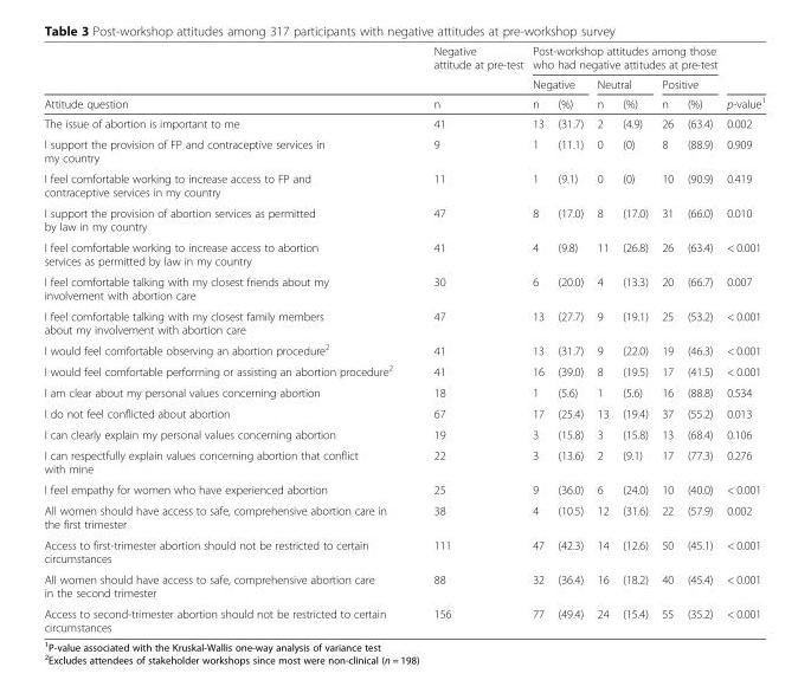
<table><thead><tr><td rowspan="3">Attitude question</td><td rowspan="3">Negative attitude at pre-test n</td><td colspan="6">Post-workshop attitudes among those who had negative attitudes at pre-test</td><td rowspan="3">p-value<sup>1</sup></td></tr><tr><td colspan="2">Negative</td><td colspan="2">Neutral</td><td colspan="2">Positive</td></tr><tr><td>n</td><td>(%)</td><td>n</td><td>(%)</td><td>n</td><td>(%)</td></tr></thead><tbody><tr><td>The issue of abortion is important to me</td><td>41</td><td>13</td><td>(31.7)</td><td>2</td><td>(4.9)</td><td>26</td><td>(63.4)</td><td>0.002</td></tr><tr><td>I support the provision of FP and contraceptive services in my country</td><td>9</td><td>1</td><td>(11.1)</td><td>0</td><td>(0)</td><td>8</td><td>(88.9)</td><td>0.909</td></tr><tr><td>I feel comfortable working to increase access to FP and contraceptive services in my country</td><td>11</td><td>1</td><td>(9.1)</td><td>0</td><td>(0)</td><td>10</td><td>(90.9)</td><td>0.419</td></tr><tr><td>I support the provision of abortion services as permitted by law in my country</td><td>47</td><td>8</td><td>(17.0)</td><td>8</td><td>(17.0)</td><td>31</td><td>(66.0)</td><td>0.010</td></tr><tr><td>I feel comfortable working to increase access to abortion services as permitted by law in my country</td><td>41</td><td>4</td><td>(9.8)</td><td>11</td><td>(26.8)</td><td>26</td><td>(63.4)</td><td>&lt; 0.001</td></tr><tr><td>I feel comfortable talking with my closest friends about my involvement with abortion care</td><td>30</td><td>6</td><td>(20.0)</td><td>4</td><td>(13.3)</td><td>20</td><td>(66.7)</td><td>0.007</td></tr><tr><td>I feel comfortable talking with my closest family members about my involvement with abortion care</td><td>47</td><td>13</td><td>(27.7)</td><td>9</td><td>(19.1)</td><td>25</td><td>(53.2)</td><td>&lt; 0.001</td></tr><tr><td>I would feel comfortable observing an abortion procedure<sup>2</sup></td><td>41</td><td>13</td><td>(31.7)</td><td>9</td><td>(22.0)</td><td>19</td><td>(46.3)</td><td>&lt; 0.001</td></tr><tr><td>I would feel comfortable performing or assisting an abortion procedure<sup>2</sup></td><td>41</td><td>16</td><td>(39.0)</td><td>8</td><td>(19.5)</td><td>17</td><td>(41.5)</td><td>&lt; 0.001</td></tr><tr><td>I am clear about my personal values concerning abortion</td><td>18</td><td>1</td><td>(5.6)</td><td>1</td><td>(5.6)</td><td>16</td><td>(88.8)</td><td>0.534</td></tr><tr><td>I do not feel conflicted about abortion</td><td>67</td><td>17</td><td>(25.4)</td><td>13</td><td>(19.4)</td><td>37</td><td>(55.2)</td><td>0.013</td></tr><tr><td>I can clearly explain my personal values concerning abortion</td><td>19</td><td>3</td><td>(15.8)</td><td>3</td><td>(15.8)</td><td>13</td><td>(68.4)</td><td>0.106</td></tr><tr><td>I can respectfully explain values concerning abortion that conflict with mine</td><td>22</td><td>3</td><td>(13.6)</td><td>2</td><td>(9.1)</td><td>17</td><td>(77.3)</td><td>0.276</td></tr><tr><td>I feel empathy for women who have experienced abortion</td><td>25</td><td>9</td><td>(36.0)</td><td>6</td><td>(24.0)</td><td>10</td><td>(40.0)</td><td>&lt; 0.001</td></tr><tr><td>All women should have access to safe, comprehensive abortion care in the first trimester</td><td>38</td><td>4</td><td>(10.5)</td><td>12</td><td>(31.6)</td><td>22</td><td>(57.9)</td><td>0.002</td></tr><tr><td>Access to first-trimester abortion should not be restricted to certain circumstances</td><td>111</td><td>47</td><td>(42.3)</td><td>14</td><td>(12.6)</td><td>50</td><td>(45.1)</td><td>&lt; 0.001</td></tr><tr><td>All women should have access to safe, comprehensive abortion care in the second trimester</td><td>88</td><td>32</td><td>(36.4)</td><td>16</td><td>(18.2)</td><td>40</td><td>(45.4)</td><td>&lt; 0.001</td></tr><tr><td>Access to second-trimester abortion should not be restricted to certain circumstances</td><td>156</td><td>77</td><td>(49.4)</td><td>24</td><td>(15.4)</td><td>55</td><td>(35.2)</td><td>&lt; 0.001</td></tr></tbody></table>